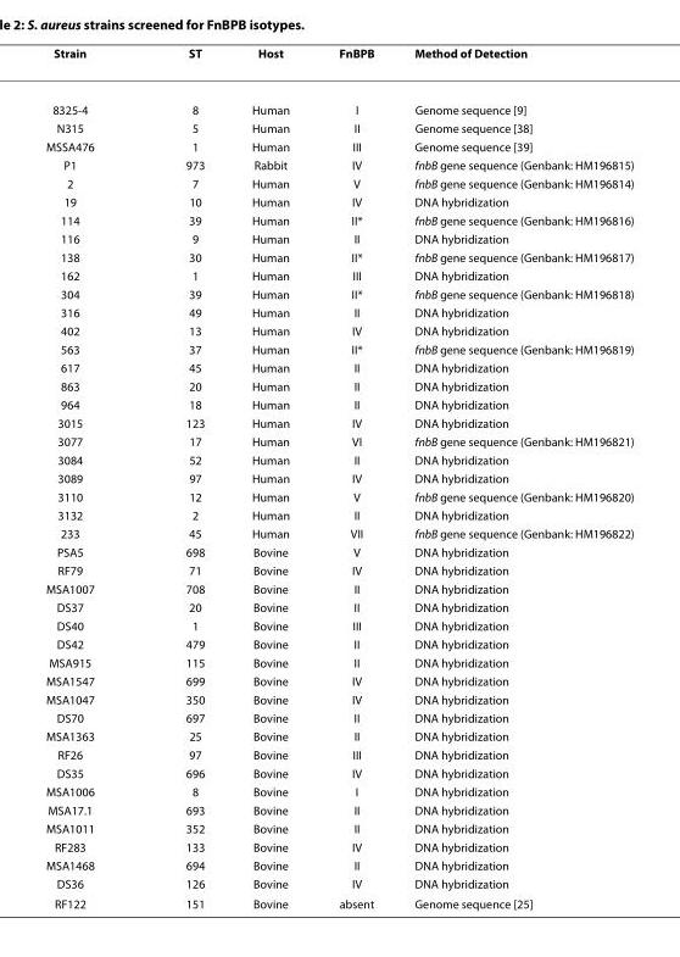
<table><thead><tr><td>Strain</td><td>ST</td><td>Host</td><td>FnBPB</td><td>Method of Detection</td></tr></thead><tbody><tr><td>8325-4</td><td>8</td><td>Human</td><td>I</td><td>Genome sequence [9]</td></tr><tr><td>N315</td><td>5</td><td>Human</td><td>II</td><td>Genome sequence [38]</td></tr><tr><td>MSSA476</td><td>1</td><td>Human</td><td>III</td><td>Genome sequence [39]</td></tr><tr><td>P1</td><td>973</td><td>Rabbit</td><td>IV</td><td>fnbB gene sequence (Genbank: HM196815)</td></tr><tr><td>2</td><td>7</td><td>Human</td><td>V</td><td>fnbB gene sequence (Genbank: HM196814)</td></tr><tr><td>19</td><td>10</td><td>Human</td><td>IV</td><td>DNA hybridization</td></tr><tr><td>114</td><td>39</td><td>Human</td><td>II*</td><td>fnbB gene sequence (Genbank: HM196816)</td></tr><tr><td>116</td><td>9</td><td>Human</td><td>II</td><td>DNA hybridization</td></tr><tr><td>138</td><td>30</td><td>Human</td><td>II*</td><td>fnbB gene sequence (Genbank: HM196817)</td></tr><tr><td>162</td><td>1</td><td>Human</td><td>III</td><td>DNA hybridization</td></tr><tr><td>304</td><td>39</td><td>Human</td><td>II*</td><td>fnbB gene sequence (Genbank: HM196818)</td></tr><tr><td>316</td><td>49</td><td>Human</td><td>II</td><td>DNA hybridization</td></tr><tr><td>402</td><td>13</td><td>Human</td><td>IV</td><td>DNA hybridization</td></tr><tr><td>563</td><td>37</td><td>Human</td><td>II*</td><td>fnbB gene sequence (Genbank: HM196819)</td></tr><tr><td>617</td><td>45</td><td>Human</td><td>II</td><td>DNA hybridization</td></tr><tr><td>863</td><td>20</td><td>Human</td><td>II</td><td>DNA hybridization</td></tr><tr><td>964</td><td>18</td><td>Human</td><td>II</td><td>DNA hybridization</td></tr><tr><td>3015</td><td>123</td><td>Human</td><td>IV</td><td>DNA hybridization</td></tr><tr><td>3077</td><td>17</td><td>Human</td><td>VI</td><td>fnbB gene sequence (Genbank: HM196821)</td></tr><tr><td>3084</td><td>52</td><td>Human</td><td>II</td><td>DNA hybridization</td></tr><tr><td>3089</td><td>97</td><td>Human</td><td>IV</td><td>DNA hybridization</td></tr><tr><td>3110</td><td>12</td><td>Human</td><td>V</td><td>fnbB gene sequence (Genbank: HM196820)</td></tr><tr><td>3132</td><td>2</td><td>Human</td><td>II</td><td>DNA hybridization</td></tr><tr><td>233</td><td>45</td><td>Human</td><td>VII</td><td>fnbB gene sequence (Genbank: HM196822)</td></tr><tr><td>PSA5</td><td>698</td><td>Bovine</td><td>V</td><td>DNA hybridization</td></tr><tr><td>RF79</td><td>71</td><td>Bovine</td><td>IV</td><td>DNA hybridization</td></tr><tr><td>MSA1007</td><td>708</td><td>Bovine</td><td>II</td><td>DNA hybridization</td></tr><tr><td>DS37</td><td>20</td><td>Bovine</td><td>II</td><td>DNA hybridization</td></tr><tr><td>DS40</td><td>1</td><td>Bovine</td><td>III</td><td>DNA hybridization</td></tr><tr><td>DS42</td><td>479</td><td>Bovine</td><td>II</td><td>DNA hybridization</td></tr><tr><td>MSA915</td><td>115</td><td>Bovine</td><td>II</td><td>DNA hybridization</td></tr><tr><td>MSA1547</td><td>699</td><td>Bovine</td><td>IV</td><td>DNA hybridization</td></tr><tr><td>MSA1047</td><td>350</td><td>Bovine</td><td>IV</td><td>DNA hybridization</td></tr><tr><td>DS70</td><td>697</td><td>Bovine</td><td>II</td><td>DNA hybridization</td></tr><tr><td>MSA1363</td><td>25</td><td>Bovine</td><td>II</td><td>DNA hybridization</td></tr><tr><td>RF26</td><td>97</td><td>Bovine</td><td>III</td><td>DNA hybridization</td></tr><tr><td>DS35</td><td>696</td><td>Bovine</td><td>IV</td><td>DNA hybridization</td></tr><tr><td>MSA1006</td><td>8</td><td>Bovine</td><td>I</td><td>DNA hybridization</td></tr><tr><td>MSA17.1</td><td>693</td><td>Bovine</td><td>II</td><td>DNA hybridization</td></tr><tr><td>MSA1011</td><td>352</td><td>Bovine</td><td>II</td><td>DNA hybridization</td></tr><tr><td>RF283</td><td>133</td><td>Bovine</td><td>IV</td><td>DNA hybridization</td></tr><tr><td>MSA1468</td><td>694</td><td>Bovine</td><td>II</td><td>DNA hybridization</td></tr><tr><td>DS36</td><td>126</td><td>Bovine</td><td>IV</td><td>DNA hybridization</td></tr><tr><td>RF122</td><td>151</td><td>Bovine</td><td>absent</td><td>Genome sequence [25]</td></tr></tbody></table>